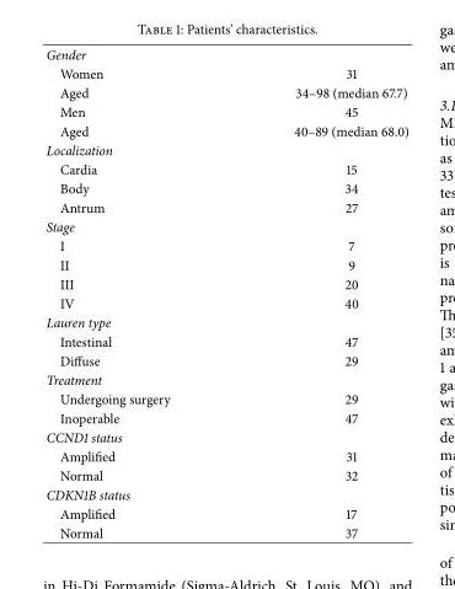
<table><tbody><tr><td colspan="2">Gender</td></tr><tr><td>Women</td><td>31</td></tr><tr><td>Aged</td><td>34–98 (median 67.7)</td></tr><tr><td>Men</td><td>45</td></tr><tr><td>Aged</td><td>40–89 (median 68.0)</td></tr><tr><td colspan="2">Localization</td></tr><tr><td>Cardia</td><td>15</td></tr><tr><td>Body</td><td>34</td></tr><tr><td>Antrum</td><td>27</td></tr><tr><td colspan="2">Stage</td></tr><tr><td>I</td><td>7</td></tr><tr><td>II</td><td>9</td></tr><tr><td>III</td><td>20</td></tr><tr><td>IV</td><td>40</td></tr><tr><td colspan="2">Lauren type</td></tr><tr><td>Intestinal</td><td>47</td></tr><tr><td>Diffuse</td><td>29</td></tr><tr><td colspan="2">Treatment</td></tr><tr><td>Undergoing surgery</td><td>29</td></tr><tr><td>Inoperable</td><td>47</td></tr><tr><td colspan="2">CCND1 status</td></tr><tr><td>Amplified</td><td>31</td></tr><tr><td>Normal</td><td>32</td></tr><tr><td colspan="2">CDKN1B status</td></tr><tr><td>Amplified</td><td>17</td></tr><tr><td>Normal</td><td>37</td></tr></tbody></table>